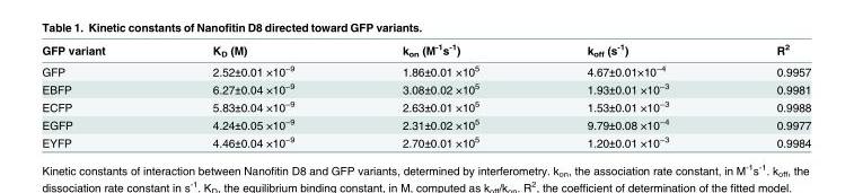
<table><thead><tr><td>GFP variant</td><td>K<sub>D</sub> (M)</td><td>k<sub>on</sub> (M<sup>-1</sup>s<sup>-1</sup>)</td><td>k<sub>off</sub> (s<sup>-1</sup>)</td><td>R<sup>2</sup></td></tr></thead><tbody><tr><td>GFP</td><td>2.52±0.01 ×10<sup>−9</sup></td><td>1.86±0.01 ×10<sup>5</sup></td><td>4.67±0.01×10<sup>−4</sup></td><td>0.9957</td></tr><tr><td>EBFP</td><td>6.27±0.04 ×10<sup>−9</sup></td><td>3.08±0.02 ×10<sup>5</sup></td><td>1.93±0.01 ×10<sup>−3</sup></td><td>0.9981</td></tr><tr><td>ECFP</td><td>5.83±0.04 ×10<sup>−9</sup></td><td>2.63±0.01 ×10<sup>5</sup></td><td>1.53±0.01 ×10<sup>−3</sup></td><td>0.9988</td></tr><tr><td>EGFP</td><td>4.24±0.05 ×10<sup>−9</sup></td><td>2.31±0.02 ×10<sup>5</sup></td><td>9.79±0.08 ×10<sup>−4</sup></td><td>0.9977</td></tr><tr><td>EYFP</td><td>4.46±0.04 ×10<sup>−9</sup></td><td>2.70±0.01 ×10<sup>5</sup></td><td>1.20±0.01 ×10<sup>−3</sup></td><td>0.9984</td></tr></tbody></table>